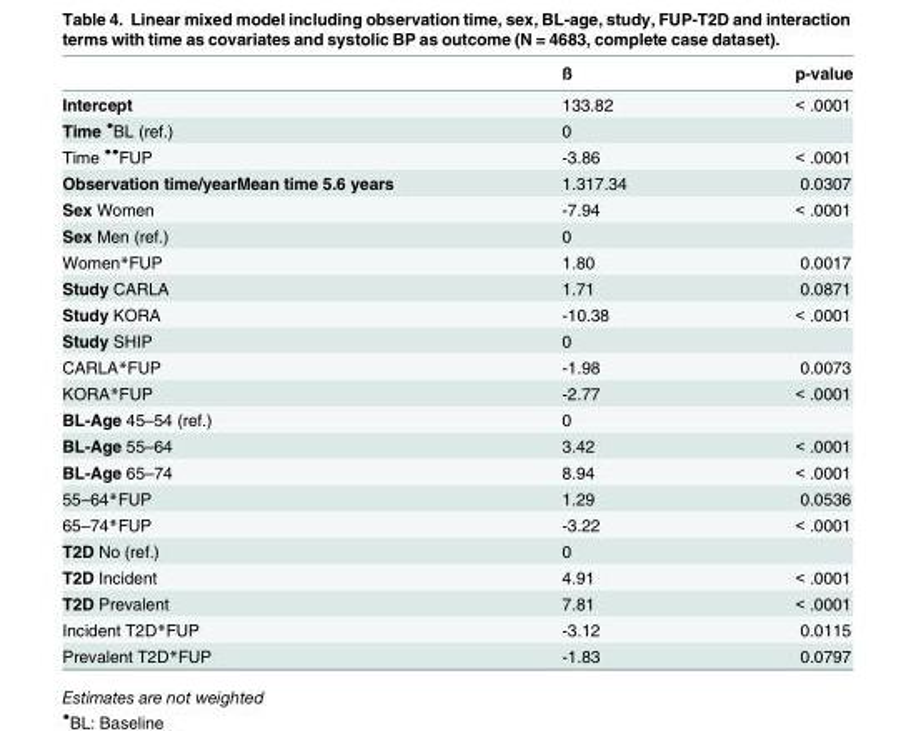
<table><thead><tr><td></td><td>ß</td><td>p-value</td></tr></thead><tbody><tr><td>Intercept</td><td>133.82</td><td>&lt; .0001</td></tr><tr><td>Time <sup>●</sup>BL (ref.)</td><td>0</td><td></td></tr><tr><td>Time <sup>●●</sup>FUP</td><td>-3.86</td><td>&lt; .0001</td></tr><tr><td>Observation time/yearMean time 5.6 years</td><td>1.317.34</td><td>0.0307</td></tr><tr><td>Sex Women</td><td>-7.94</td><td>&lt; .0001</td></tr><tr><td>Sex Men (ref.)</td><td>0</td><td></td></tr><tr><td>Women*FUP</td><td>1.80</td><td>0.0017</td></tr><tr><td>Study CARLA</td><td>1.71</td><td>0.0871</td></tr><tr><td>Study KORA</td><td>-10.38</td><td>&lt; .0001</td></tr><tr><td>Study SHIP</td><td>0</td><td></td></tr><tr><td>CARLA*FUP</td><td>-1.98</td><td>0.0073</td></tr><tr><td>KORA*FUP</td><td>-2.77</td><td>&lt; .0001</td></tr><tr><td>BL-Age 45–54 (ref.)</td><td>0</td><td></td></tr><tr><td>BL-Age 55–64</td><td>3.42</td><td>&lt; .0001</td></tr><tr><td>BL-Age 65–74</td><td>8.94</td><td>&lt; .0001</td></tr><tr><td>55–64*FUP</td><td>1.29</td><td>0.0536</td></tr><tr><td>65–74*FUP</td><td>-3.22</td><td>&lt; .0001</td></tr><tr><td>T2D No (ref.)</td><td>0</td><td></td></tr><tr><td>T2D Incident</td><td>4.91</td><td>&lt; .0001</td></tr><tr><td>T2D Prevalent</td><td>7.81</td><td>&lt; .0001</td></tr><tr><td>Incident T2D*FUP</td><td>-3.12</td><td>0.0115</td></tr><tr><td>Prevalent T2D*FUP</td><td>-1.83</td><td>0.0797</td></tr></tbody></table>